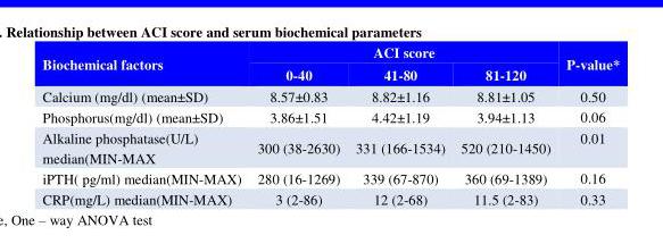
<table><thead><tr><td rowspan="2">Biochemical factors</td><td colspan="3">ACI score</td><td rowspan="2">P-value*</td></tr><tr><td>0-40</td><td>41-80</td><td>81-120</td></tr></thead><tbody><tr><td>Calcium (mg/dl) (mean±SD)</td><td>8.57±0.83</td><td>8.82±1.16</td><td>8.81±1.05</td><td>0.50</td></tr><tr><td>Phosphorus(mg/dl) (mean±SD)</td><td>3.86±1.51</td><td>4.42±1.19</td><td>3.94±1.13</td><td>0.06</td></tr><tr><td>Alkaline phosphatase(U/L) median(MIN-MAX</td><td>300 (38-2630)</td><td>331 (166-1534)</td><td>520 (210-1450)</td><td>0.01</td></tr><tr><td>iPTH( pg/ml) median(MIN-MAX)</td><td>280 (16-1269)</td><td>339 (67-870)</td><td>360 (69-1389)</td><td>0.16</td></tr><tr><td>CRP(mg/L) median(MIN-MAX)</td><td>3 (2-86)</td><td>12 (2-68)</td><td>11.5 (2-83)</td><td>0.33</td></tr></tbody></table>